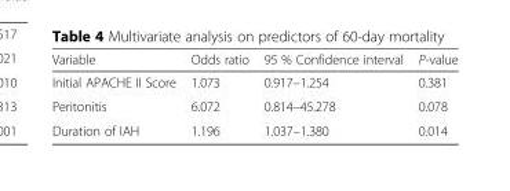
<table><thead><tr><td>Variable</td><td>Odds ratio</td><td>95 % Confidence interval</td><td>P-value</td></tr></thead><tbody><tr><td>Initial APACHE II Score</td><td>1.073</td><td>0.917–1.254</td><td>0.381</td></tr><tr><td>Peritonitis</td><td>6.072</td><td>0.814–45.278</td><td>0.078</td></tr><tr><td>Duration of IAH</td><td>1.196</td><td>1.037–1.380</td><td>0.014</td></tr></tbody></table>